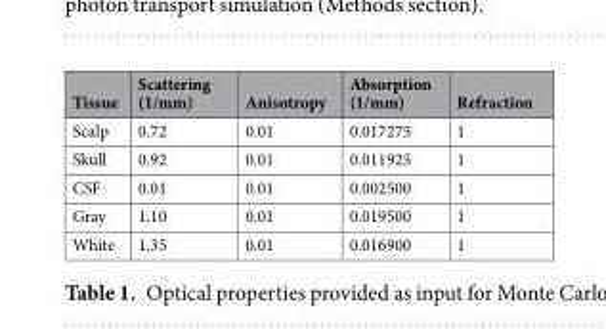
<table><thead><tr><td>Tissue</td><td>Scattering (1/mm)</td><td>Anisotropy</td><td>Absorption (1/mm)</td><td>Refraction</td></tr></thead><tbody><tr><td>Scalp</td><td>0.72</td><td>0.01</td><td>0.017275</td><td>1</td></tr><tr><td>Skull</td><td>0.92</td><td>0.01</td><td>0.011925</td><td>1</td></tr><tr><td>CSF</td><td>0.01</td><td>0.01</td><td>0.002500</td><td>1</td></tr><tr><td>Gray</td><td>1.10</td><td>0.01</td><td>0.019500</td><td>1</td></tr><tr><td>White</td><td>1.35</td><td>0.01</td><td>0.016900</td><td>1</td></tr></tbody></table>